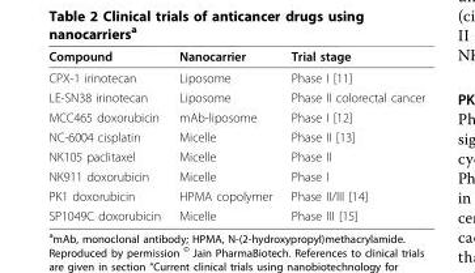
<table><thead><tr><td>Compound</td><td>Nanocarrier</td><td>Trial stage</td></tr></thead><tbody><tr><td>CPX-1 irinotecan</td><td>Liposome</td><td>Phase I [11]</td></tr><tr><td>LE-SN38 irinotecan</td><td>Liposome</td><td>Phase II colorectal cancer</td></tr><tr><td>MCC465 doxorubicin</td><td>mAb-liposome</td><td>Phase I [12]</td></tr><tr><td>NC-6004 cisplatin</td><td>Micelle</td><td>Phase II [13]</td></tr><tr><td>NK105 paclitaxel</td><td>Micelle</td><td>Phase II</td></tr><tr><td>NK911 doxorubicin</td><td>Micelle</td><td>Phase I</td></tr><tr><td>PK1 doxorubicin</td><td>HPMA copolymer</td><td>Phase II/III [14]</td></tr><tr><td>SP1049C doxorubicin</td><td>Micelle</td><td>Phase III [15]</td></tr></tbody></table>